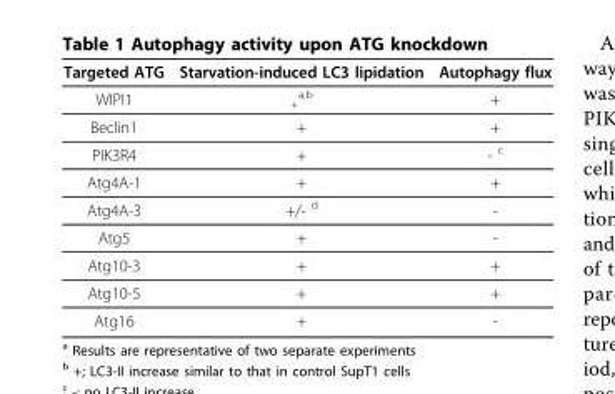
<table><thead><tr><td>Targeted ATG</td><td>Starvation-induced LC3 lipidation</td><td>Autophagy flux</td></tr></thead><tbody><tr><td>WIPI1</td><td><sub>+</sub> <sup>a,b</sup></td><td>+</td></tr><tr><td>Beclin1</td><td>+</td><td>+</td></tr><tr><td>PIK3R4</td><td>+</td><td>- <sup>c</sup></td></tr><tr><td>Atg4A-1</td><td>+</td><td>+</td></tr><tr><td>Atg4A-3</td><td>+/- <sup>d</sup></td><td>-</td></tr><tr><td>Atg5</td><td>+</td><td>-</td></tr><tr><td>Atg10-3</td><td>+</td><td>+</td></tr><tr><td>Atg10-5</td><td>+</td><td>+</td></tr><tr><td>Atg16</td><td>+</td><td>-</td></tr></tbody></table>